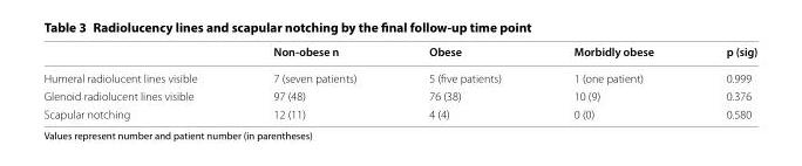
<table><thead><tr><td></td><td>Non‑obese n</td><td>Obese</td><td>Morbidly obese</td><td>p (sig)</td></tr></thead><tbody><tr><td>Humeral radiolucent lines visible</td><td>7 (seven patients)</td><td>5 (five patients)</td><td>1 (one patient)</td><td>0.999</td></tr><tr><td>Glenoid radiolucent lines visible</td><td>97 (48)</td><td>76 (38)</td><td>10 (9)</td><td>0.376</td></tr><tr><td>Scapular notching</td><td>12 (11)</td><td>4 (4)</td><td>0 (0)</td><td>0.580</td></tr></tbody></table>